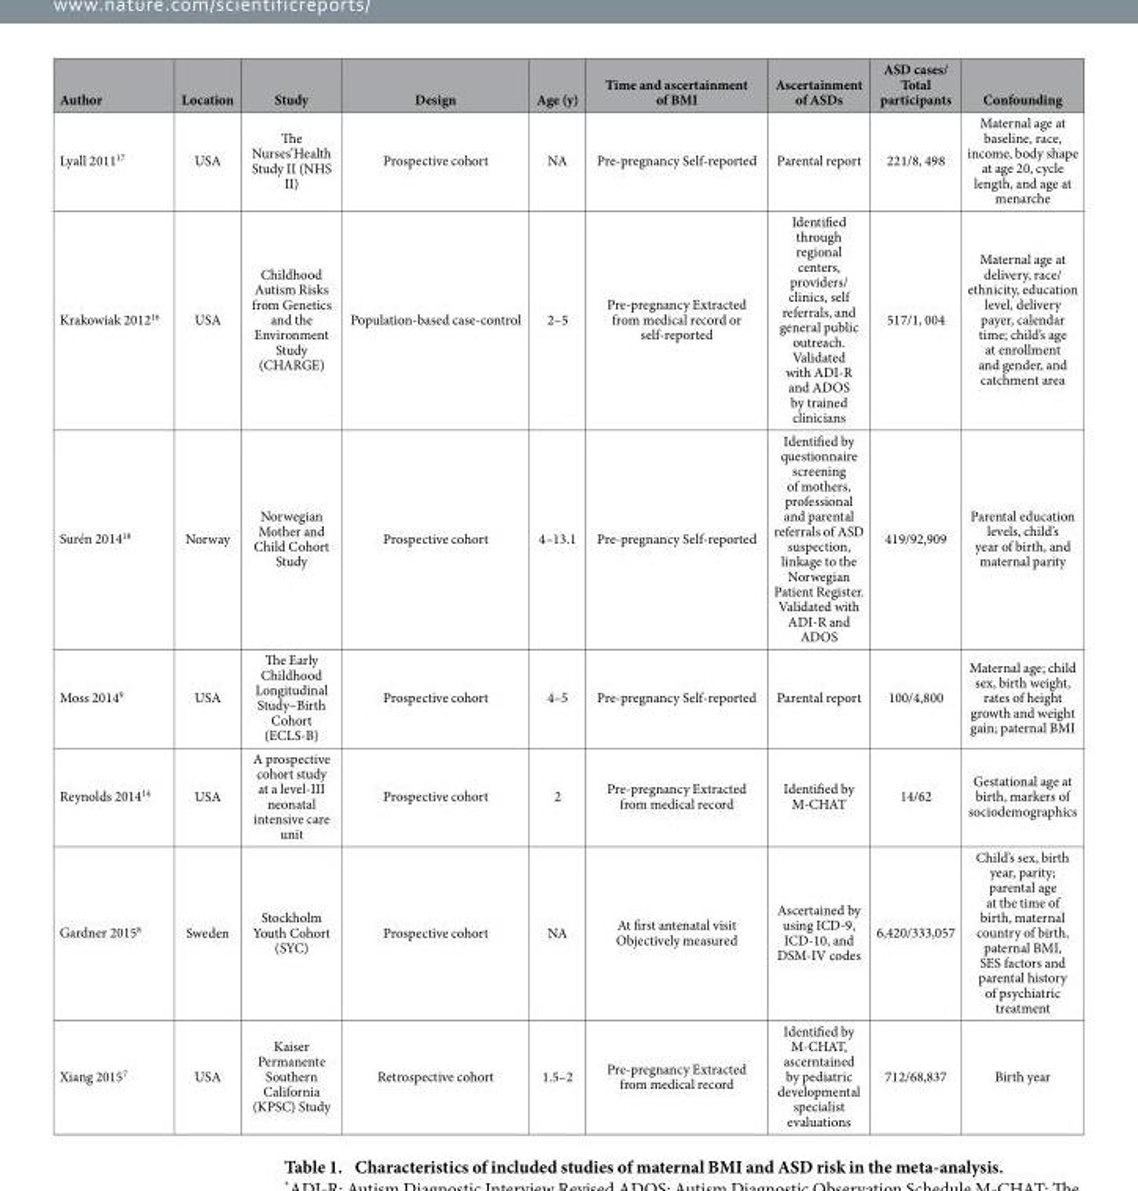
<table><thead><tr><td>Author</td><td>Location</td><td>Study</td><td>Design</td><td>Age (y)</td><td>Time and ascertainment of BMI</td><td>Ascertainment of ASDs</td><td>ASD cases/ Total participants</td><td>Confounding</td></tr></thead><tbody><tr><td>Lyall 2011<sup>17</sup></td><td>USA</td><td>The Nurses’Health Study II (NHS II)</td><td>Prospective cohort</td><td>NA</td><td>Pre-pregnancy Self-reported</td><td>Parental report</td><td>221/8, 498</td><td>Maternal age at baseline, race, income, body shape at age 20, cycle length, and age at menarche</td></tr><tr><td>Krakowiak 2012<sup>16</sup></td><td>USA</td><td>Childhood Autism Risks from Genetics and the Environment Study (CHARGE)</td><td>Population-based case-control</td><td>2–5</td><td>Pre-pregnancy Extracted from medical record or self-reported</td><td>Identified through regional centers, providers/ clinics, self referrals, and general public outreach. Validated with ADI-R and ADOS by trained clinicians</td><td>517/1, 004</td><td>Maternal age at delivery, race/ ethnicity, education level, delivery payer, calendar time; child’s age at enrollment and gender, and catchment area</td></tr><tr><td>Surén 2014<sup>18</sup></td><td>Norway</td><td>Norwegian Mother and Child Cohort Study</td><td>Prospective cohort</td><td>4–13.1</td><td>Pre-pregnancy Self-reported</td><td>Identified by questionnaire screening of mothers, professional and parental referrals of ASD suspection, linkage to the Norwegian Patient Register. Validated with ADI-R and ADOS</td><td>419/92,909</td><td>Parental education levels, child’s year of birth, and maternal parity</td></tr><tr><td>Moss 2014<sup>9</sup></td><td>USA</td><td>The Early Childhood Longitudinal Study–Birth Cohort (ECLS-B)</td><td>Prospective cohort</td><td>4–5</td><td>Pre-pregnancy Self-reported</td><td>Parental report</td><td>100/4,800</td><td>Maternal age; child sex, birth weight, rates of height growth and weight gain; paternal BMI</td></tr><tr><td>Reynolds 2014<sup>14</sup></td><td>USA</td><td>A prospective cohort study at a level-III neonatal intensive care unit</td><td>Prospective cohort</td><td>2</td><td>Pre-pregnancy Extracted from medical record</td><td>Identified by M-CHAT</td><td>14/62</td><td>Gestational age at birth, markers of sociodemographics</td></tr><tr><td>Gardner 2015<sup>8</sup></td><td>Sweden</td><td>Stockholm Youth Cohort (SYC)</td><td>Prospective cohort</td><td>NA</td><td>At first antenatal visit Objectively measured</td><td>Ascertained by using ICD-9, ICD-10, and DSM-IV codes</td><td>6,420/333,057</td><td>Child’s sex, birth year, parity; parental age at the time of birth, maternal country of birth, paternal BMI, SES factors and parental history of psychiatric treatment</td></tr><tr><td>Xiang 2015<sup>7</sup></td><td>USA</td><td>Kaiser Permanente Southern California (KPSC) Study</td><td>Retrospective cohort</td><td>1.5–2</td><td>Pre-pregnancy Extracted from medical record</td><td>Identified by M-CHAT, ascerntained by pediatric developmental specialist evaluations</td><td>712/68,837</td><td>Birth year</td></tr></tbody></table>